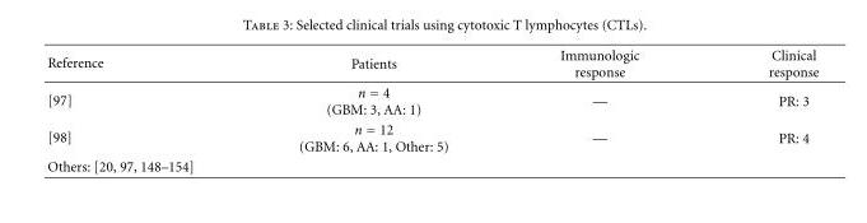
<table><thead><tr><td>Reference</td><td>Patients</td><td>Immunologic response</td><td>Clinical response</td></tr></thead><tbody><tr><td>[97]</td><td>n = 4 (GBM: 3, AA: 1)</td><td>—</td><td>PR: 3</td></tr><tr><td>[98]</td><td>n = 12 (GBM: 6, AA: 1, Other: 5)</td><td>—</td><td>PR: 4</td></tr><tr><td>Others: [20, 97, 148–154]</td><td></td><td></td><td></td></tr></tbody></table>